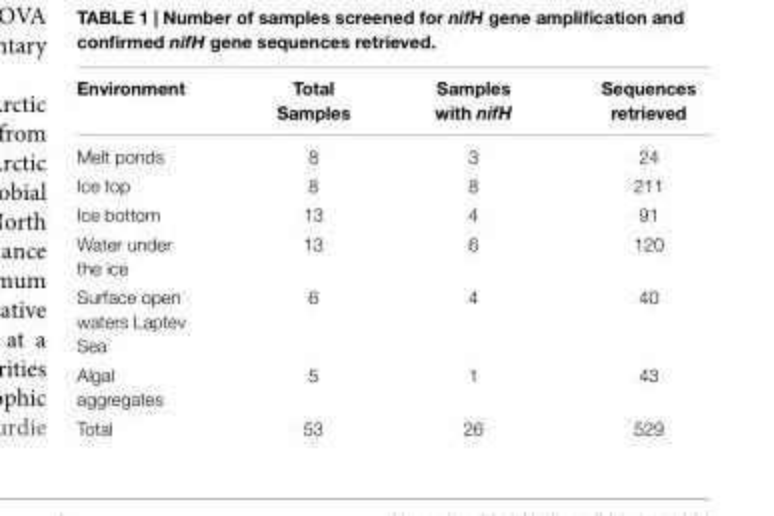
<table><thead><tr><td>Environment</td><td>Total Samples</td><td>Samples with nifH</td><td>Sequences retrieved</td></tr></thead><tbody><tr><td>Melt ponds</td><td>8</td><td>3</td><td>24</td></tr><tr><td>Ice top</td><td>8</td><td>8</td><td>211</td></tr><tr><td>Ice bottom</td><td>13</td><td>4</td><td>91</td></tr><tr><td>Water under the ice</td><td>13</td><td>6</td><td>120</td></tr><tr><td>Surface open waters Laptev Sea</td><td>6</td><td>4</td><td>40</td></tr><tr><td>Algal aggregates</td><td>5</td><td>1</td><td>43</td></tr><tr><td>Total</td><td>53</td><td>26</td><td>529</td></tr></tbody></table>